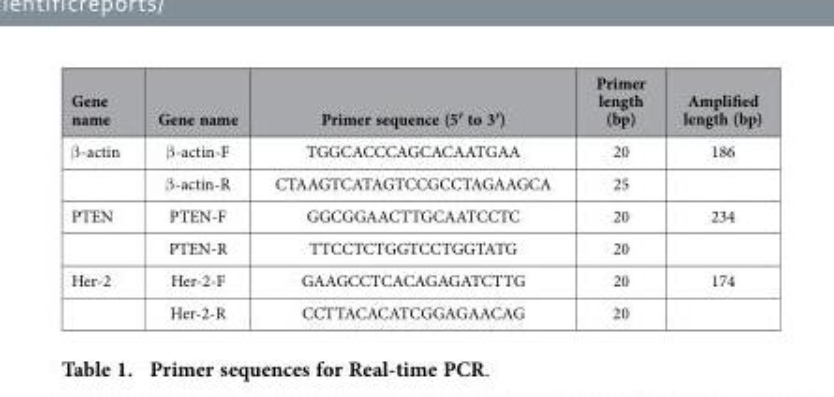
<table><thead><tr><td>Gene name</td><td>Gene name</td><td>Primer sequence (5′ to 3′)</td><td>Primer length (bp)</td><td>Amplified length (bp)</td></tr></thead><tbody><tr><td rowspan="2">β -actin</td><td>β -actin-F</td><td>TGGCACCCAGCACAATGAA</td><td>20</td><td>186</td></tr><tr><td>β -actin-R</td><td>CTAAGTCATAGTCCGCCTAGAAGCA</td><td>25</td><td></td></tr><tr><td rowspan="2">PTEN</td><td>PTEN-F</td><td>GGCGGAACTTGCAATCCTC</td><td>20</td><td>234</td></tr><tr><td>PTEN-R</td><td>TTCCTCTGGTCCTGGTATG</td><td>20</td><td></td></tr><tr><td rowspan="2">Her-2</td><td>Her-2-F</td><td>GAAGCCTCACAGAGATCTTG</td><td>20</td><td>174</td></tr><tr><td>Her-2-R</td><td>CCTTACACATCGGAGAACAG</td><td>20</td><td></td></tr></tbody></table>